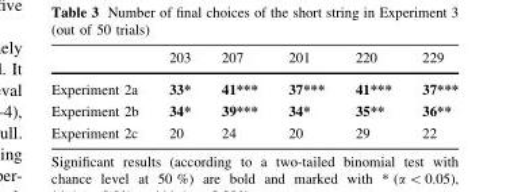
<table><thead><tr><td></td><td>203</td><td>207</td><td>201</td><td>220</td><td>229</td></tr></thead><tbody><tr><td>Experiment 2a</td><td>33*</td><td>41***</td><td>37***</td><td>41***</td><td>37***</td></tr><tr><td>Experiment 2b</td><td>34*</td><td>39***</td><td>34*</td><td>35**</td><td>36**</td></tr><tr><td>Experiment 2c</td><td>20</td><td>24</td><td>20</td><td>29</td><td>22</td></tr></tbody></table>